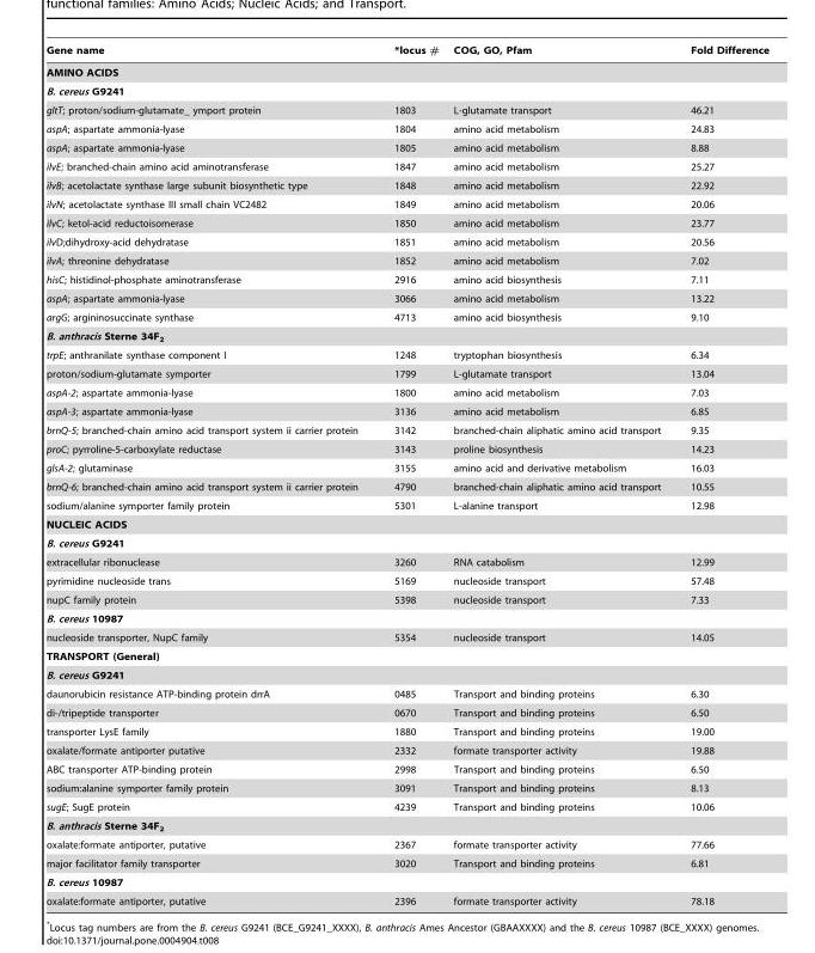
<table><thead><tr><td>Gene name</td><td>*locus #</td><td>COG, GO, Pfam</td><td>Fold Difference</td></tr></thead><tbody><tr><td colspan="4">AMINO ACIDS</td></tr><tr><td colspan="4">B. cereus G9241</td></tr><tr><td>gltT; proton/sodium-glutamate_ ymport protein</td><td>1803</td><td>L-glutamate transport</td><td>46.21</td></tr><tr><td>aspA; aspartate ammonia-lyase</td><td>1804</td><td>amino acid metabolism</td><td>24.83</td></tr><tr><td>aspA; aspartate ammonia-lyase</td><td>1805</td><td>amino acid metabolism</td><td>8.88</td></tr><tr><td>ilvE; branched-chain amino acid aminotransferase</td><td>1847</td><td>amino acid metabolism</td><td>25.27</td></tr><tr><td>ilvB; acetolactate synthase large subunit biosynthetic type</td><td>1848</td><td>amino acid metabolism</td><td>22.92</td></tr><tr><td>ilvN; acetolactate synthase III small chain VC2482</td><td>1849</td><td>amino acid metabolism</td><td>20.06</td></tr><tr><td>ilvC; ketol-acid reductoisomerase</td><td>1850</td><td>amino acid metabolism</td><td>23.77</td></tr><tr><td>ilvD;dihydroxy-acid dehydratase</td><td>1851</td><td>amino acid metabolism</td><td>20.56</td></tr><tr><td>ilvA; threonine dehydratase</td><td>1852</td><td>amino acid metabolism</td><td>7.02</td></tr><tr><td>hisC; histidinol-phosphate aminotransferase</td><td>2916</td><td>amino acid biosynthesis</td><td>7.11</td></tr><tr><td>aspA; aspartate ammonia-lyase</td><td>3066</td><td>amino acid metabolism</td><td>13.22</td></tr><tr><td>argG; argininosuccinate synthase</td><td>4713</td><td>amino acid biosynthesis</td><td>9.10</td></tr><tr><td colspan="4">B. anthracis Sterne 34F<sub>2</sub></td></tr><tr><td>trpE; anthranilate synthase component I</td><td>1248</td><td>tryptophan biosynthesis</td><td>6.34</td></tr><tr><td>proton/sodium-glutamate symporter</td><td>1799</td><td>L-glutamate transport</td><td>13.04</td></tr><tr><td>aspA-2; aspartate ammonia-lyase</td><td>1800</td><td>amino acid metabolism</td><td>7.03</td></tr><tr><td>aspA-3; aspartate ammonia-lyase</td><td>3136</td><td>amino acid metabolism</td><td>6.85</td></tr><tr><td>brnQ-5; branched-chain amino acid transport system ii carrier protein</td><td>3142</td><td>branched-chain aliphatic amino acid transport</td><td>9.35</td></tr><tr><td>proC; pyrroline-5-carboxylate reductase</td><td>3143</td><td>proline biosynthesis</td><td>14.23</td></tr><tr><td>glsA-2; glutaminase</td><td>3155</td><td>amino acid and derivative metabolism</td><td>16.03</td></tr><tr><td>brnQ-6; branched-chain amino acid transport system ii carrier protein</td><td>4790</td><td>branched-chain aliphatic amino acid transport</td><td>10.55</td></tr><tr><td>sodium/alanine symporter family protein</td><td>5301</td><td>L-alanine transport</td><td>12.98</td></tr><tr><td colspan="4">NUCLEIC ACIDS</td></tr><tr><td colspan="4">B. cereus G9241</td></tr><tr><td>extracellular ribonuclease</td><td>3260</td><td>RNA catabolism</td><td>12.99</td></tr><tr><td>pyrimidine nucleoside trans</td><td>5169</td><td>nucleoside transport</td><td>57.48</td></tr><tr><td>nupC family protein</td><td>5398</td><td>nucleoside transport</td><td>7.33</td></tr><tr><td colspan="4">B. cereus 10987</td></tr><tr><td>nucleoside transporter, NupC family</td><td>5354</td><td>nucleoside transport</td><td>14.05</td></tr><tr><td colspan="4">TRANSPORT (General)</td></tr><tr><td colspan="4">B. cereus G9241</td></tr><tr><td>daunorubicin resistance ATP-binding protein drrA</td><td>0485</td><td>Transport and binding proteins</td><td>6.30</td></tr><tr><td>di-/tripeptide transporter</td><td>0670</td><td>Transport and binding proteins</td><td>6.50</td></tr><tr><td>transporter LysE family</td><td>1880</td><td>Transport and binding proteins</td><td>19.00</td></tr><tr><td>oxalate/formate antiporter putative</td><td>2332</td><td>formate transporter activity</td><td>19.88</td></tr><tr><td>ABC transporter ATP-binding protein</td><td>2998</td><td>Transport and binding proteins</td><td>6.50</td></tr><tr><td>sodium:alanine symporter family protein</td><td>3091</td><td>Transport and binding proteins</td><td>8.13</td></tr><tr><td>sugE; SugE protein</td><td>4239</td><td>Transport and binding proteins</td><td>10.06</td></tr><tr><td colspan="4">B. anthracis Sterne 34F<sub>2</sub></td></tr><tr><td>oxalate:formate antiporter, putative</td><td>2367</td><td>formate transporter activity</td><td>77.66</td></tr><tr><td>major facilitator family transporter</td><td>3020</td><td>Transport and binding proteins</td><td>6.81</td></tr><tr><td colspan="4">B. cereus 10987</td></tr><tr><td>oxalate:formate antiporter, putative</td><td>2396</td><td>formate transporter activity</td><td>78.18</td></tr></tbody></table>